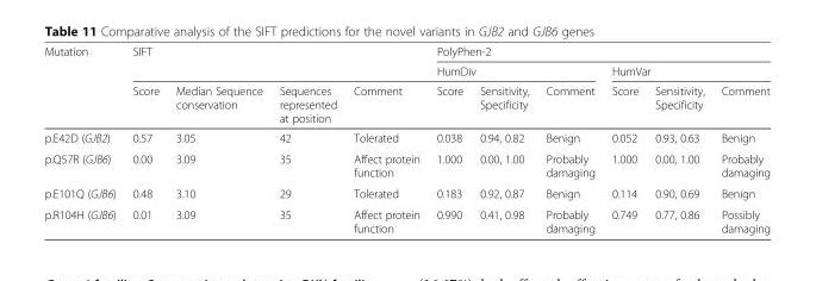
<table><thead><tr><td rowspan="3">Mutation</td><td rowspan="2" colspan="4">SIFT</td><td colspan="6">PolyPhen-2</td></tr><tr><td colspan="3">HumDiv</td><td colspan="3">HumVar</td></tr><tr><td>Score</td><td>Median Sequence conservation</td><td>Sequences represented at position</td><td>Comment</td><td>Score</td><td>Sensitivity, Specificity</td><td>Comment</td><td>Score</td><td>Sensitivity, Specificity</td><td>Comment</td></tr></thead><tbody><tr><td>p.E42D (GJB2)</td><td>0.57</td><td>3.05</td><td>42</td><td>Tolerated</td><td>0.038</td><td>0.94, 0.82</td><td>Benign</td><td>0.052</td><td>0.93, 0.63</td><td>Benign</td></tr><tr><td>p.Q57R (GJB6)</td><td>0.00</td><td>3.09</td><td>35</td><td>Affect protein function</td><td>1.000</td><td>0.00, 1.00</td><td>Probably damaging</td><td>1.000</td><td>0.00, 1.00</td><td>Probably damaging</td></tr><tr><td>p.E101Q (GJB6)</td><td>0.48</td><td>3.10</td><td>29</td><td>Tolerated</td><td>0.183</td><td>0.92, 0.87</td><td>Benign</td><td>0.114</td><td>0.90, 0.69</td><td>Benign</td></tr><tr><td>p.R104H (GJB6)</td><td>0.01</td><td>3.09</td><td>35</td><td>Affect protein function</td><td>0.990</td><td>0.41, 0.98</td><td>Probably damaging</td><td>0.749</td><td>0.77, 0.86</td><td>Possibly damaging</td></tr></tbody></table>